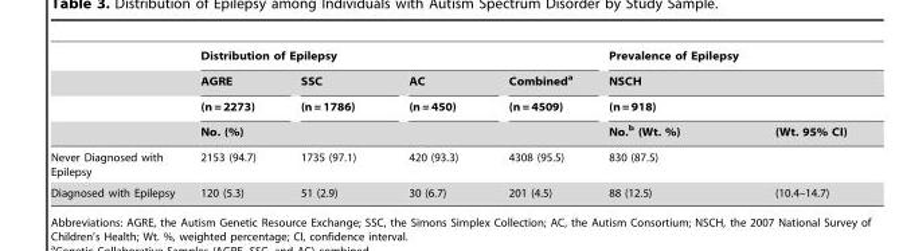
<table><thead><tr><td rowspan="4"></td><td colspan="4">Distribution of Epilepsy</td><td rowspan="3" colspan="2">Prevalence of Epilepsy NSCH (n = 918)</td></tr><tr><td rowspan="2">AGRE (n = 2273)</td><td rowspan="2">SSC (n = 1786)</td><td rowspan="2">AC (n = 450)</td><td rowspan="2">Combined<sup>a</sup> (n = 4509)</td></tr><tr></tr><tr><td colspan="4">No. (%)</td><td>No.<sup>b</sup> (Wt. %)</td><td>(Wt. 95% CI)</td></tr></thead><tbody><tr><td>Never Diagnosed with Epilepsy</td><td>2153 (94.7)</td><td>1735 (97.1)</td><td>420 (93.3)</td><td>4308 (95.5)</td><td>830 (87.5)</td><td></td></tr><tr><td>Diagnosed with Epilepsy</td><td>120 (5.3)</td><td>51 (2.9)</td><td>30 (6.7)</td><td>201 (4.5)</td><td>88 (12.5)</td><td>(10.4–14.7)</td></tr></tbody></table>